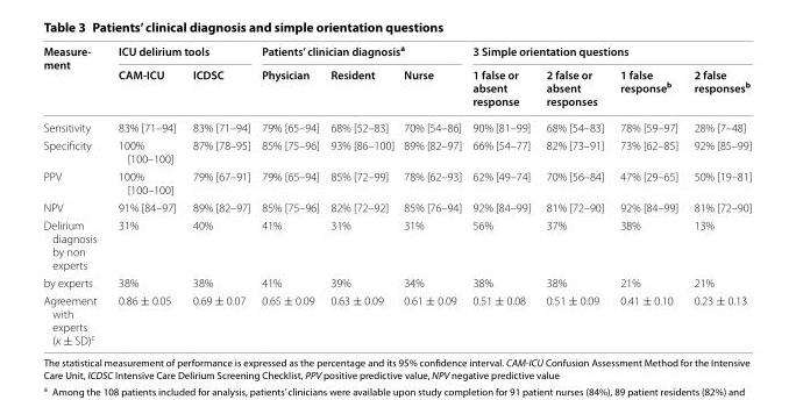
<table><thead><tr><td rowspan="2">Measure‑ ment</td><td colspan="2">ICU delirium tools</td><td colspan="3">Patients’ clinician diagnosis<sup>a</sup></td><td colspan="4">3 Simple orientation questions</td></tr><tr><td>CAM‑ICU</td><td>ICDSC</td><td>Physician</td><td>Resident</td><td>Nurse</td><td>1 false or absent response</td><td>2 false or absent responses</td><td>1 false response<sup>b</sup></td><td>2 false responses<sup>b</sup></td></tr></thead><tbody><tr><td>Sensitivity</td><td>83% [71–94]</td><td>83% [71–94]</td><td>79% [65–94]</td><td>68% [52–83]</td><td>70% [54–86]</td><td>90% [81–99]</td><td>68% [54–83]</td><td>78% [59–97]</td><td>28% [7–48]</td></tr><tr><td>Specificity</td><td>100% [100–100]</td><td>87% [78–95]</td><td>85% [75–96]</td><td>93% [86–100]</td><td>89% [82–97]</td><td>66% [54–77]</td><td>82% [73–91]</td><td>73% [62–85]</td><td>92% [85–99]</td></tr><tr><td>PPV</td><td>100% [100–100]</td><td>79% [67–91]</td><td>79% [65–94]</td><td>85% [72–99]</td><td>78% [62–93]</td><td>62% [49–74]</td><td>70% [56–84]</td><td>47% [29–65]</td><td>50% [19–81]</td></tr><tr><td>NPV</td><td>91% [84–97]</td><td>89% [82–97]</td><td>85% [75–96]</td><td>82% [72–92]</td><td>85% [76–94]</td><td>92% [84–99]</td><td>81% [72–90]</td><td>92% [84–99]</td><td>81% [72–90]</td></tr><tr><td>Delirium diagnosis by non experts</td><td>31%</td><td>40%</td><td>41%</td><td>31%</td><td>31%</td><td>56%</td><td>37%</td><td>38%</td><td>13%</td></tr><tr><td>by experts</td><td>38%</td><td>38%</td><td>41%</td><td>39%</td><td>34%</td><td>38%</td><td>38%</td><td>21%</td><td>21%</td></tr><tr><td>Agreement with experts (κ ± SD)<sup>c</sup></td><td>0.86 ± 0.05</td><td>0.69 ± 0.07</td><td>0.65 ± 0.09</td><td>0.63 ± 0.09</td><td>0.61 ± 0.09</td><td>0.51 ± 0.08</td><td>0.51 ± 0.09</td><td>0.41 ± 0.10</td><td>0.23 ± 0.13</td></tr></tbody></table>